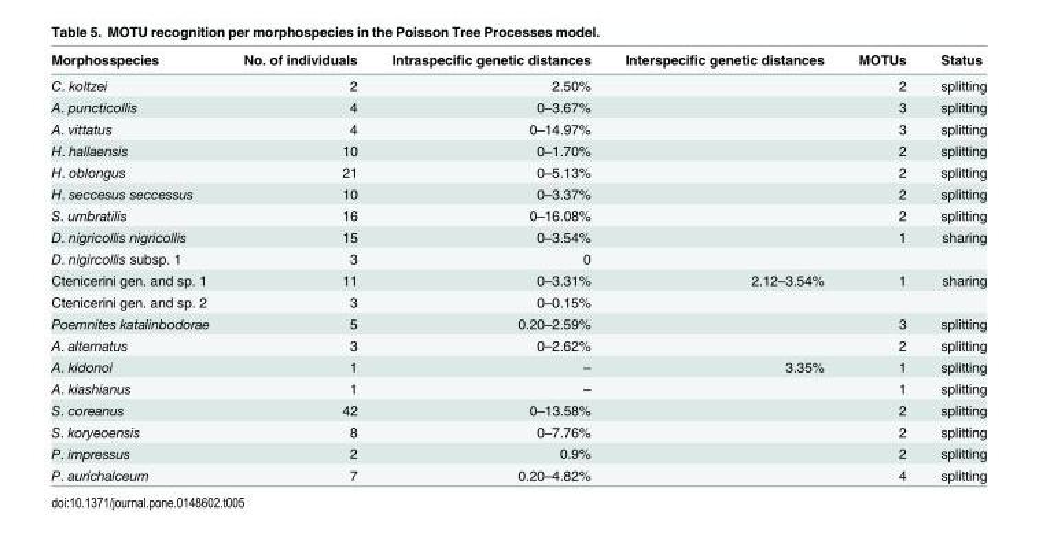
<table><thead><tr><td>Morphosspecies</td><td>No. of individuals</td><td>Intraspecific genetic distances</td><td>Interspecific genetic distances</td><td>MOTUs</td><td>Status</td></tr></thead><tbody><tr><td>C. koltzei</td><td>2</td><td>2.50%</td><td></td><td>2</td><td>splitting</td></tr><tr><td>A. puncticollis</td><td>4</td><td>0–3.67%</td><td></td><td>3</td><td>splitting</td></tr><tr><td>A. vittatus</td><td>4</td><td>0–14.97%</td><td></td><td>3</td><td>splitting</td></tr><tr><td>H. hallaensis</td><td>10</td><td>0–1.70%</td><td></td><td>2</td><td>splitting</td></tr><tr><td>H. oblongus</td><td>21</td><td>0–5.13%</td><td></td><td>2</td><td>splitting</td></tr><tr><td>H. seccesus seccessus</td><td>10</td><td>0–3.37%</td><td></td><td>2</td><td>splitting</td></tr><tr><td>S. umbratilis</td><td>16</td><td>0–16.08%</td><td></td><td>2</td><td>splitting</td></tr><tr><td>D. nigricollis nigricollis</td><td>15</td><td>0–3.54%</td><td></td><td>1</td><td>sharing</td></tr><tr><td>D. nigircollis subsp. 1</td><td>3</td><td>0</td><td></td><td></td><td></td></tr><tr><td>Ctenicerini gen. and sp. 1</td><td>11</td><td>0–3.31%</td><td>2.12–3.54%</td><td>1</td><td>sharing</td></tr><tr><td>Ctenicerini gen. and sp. 2</td><td>3</td><td>0–0.15%</td><td></td><td></td><td></td></tr><tr><td>Poemnites katalinbodorae</td><td>5</td><td>0.20–2.59%</td><td></td><td>3</td><td>splitting</td></tr><tr><td>A. alternatus</td><td>3</td><td>0–2.62%</td><td></td><td>2</td><td>splitting</td></tr><tr><td>A. kidonoi</td><td>1</td><td>–</td><td>3.35%</td><td>1</td><td>splitting</td></tr><tr><td>A. kiashianus</td><td>1</td><td>–</td><td></td><td>1</td><td>splitting</td></tr><tr><td>S. coreanus</td><td>42</td><td>0–13.58%</td><td></td><td>2</td><td>splitting</td></tr><tr><td>S. koryeoensis</td><td>8</td><td>0–7.76%</td><td></td><td>2</td><td>splitting</td></tr><tr><td>P. impressus</td><td>2</td><td>0.9%</td><td></td><td>2</td><td>splitting</td></tr><tr><td>P. aurichalceum</td><td>7</td><td>0.20–4.82%</td><td></td><td>4</td><td>splitting</td></tr></tbody></table>